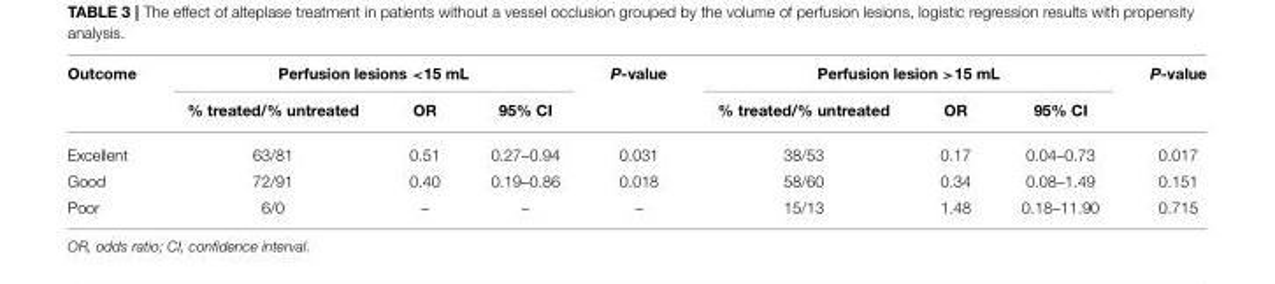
<table><thead><tr><td rowspan="2">Outcome</td><td colspan="3">Perfusion lesions &lt;15 mL</td><td rowspan="2">P-value</td><td colspan="3">Perfusion lesion &gt;15 mL</td><td rowspan="2">P-value</td></tr><tr><td>% treated/% untreated</td><td>OR</td><td>95% CI</td><td>% treated/% untreated</td><td>OR</td><td>95% CI</td></tr></thead><tbody><tr><td>Excellent</td><td>63/81</td><td>0.51</td><td>0.27–0.94</td><td>0.031</td><td>38/53</td><td>0.17</td><td>0.04–0.73</td><td>0.017</td></tr><tr><td>Good</td><td>72/91</td><td>0.40</td><td>0.19–0.86</td><td>0.018</td><td>58/60</td><td>0.34</td><td>0.08–1.49</td><td>0.151</td></tr><tr><td>Poor</td><td>6/0</td><td>–</td><td>–</td><td>–</td><td>15/13</td><td>1.48</td><td>0.18–11.90</td><td>0.715</td></tr></tbody></table>